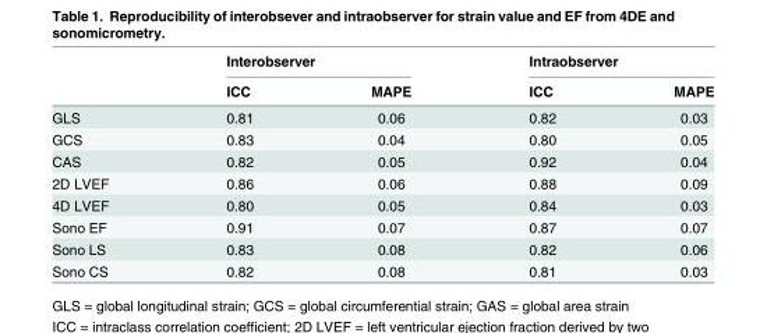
<table><thead><tr><td rowspan="2"></td><td colspan="2">Interobserver</td><td colspan="2">Intraobserver</td></tr><tr><td>ICC</td><td>MAPE</td><td>ICC</td><td>MAPE</td></tr></thead><tbody><tr><td>GLS</td><td>0.81</td><td>0.06</td><td>0.82</td><td>0.03</td></tr><tr><td>GCS</td><td>0.83</td><td>0.04</td><td>0.80</td><td>0.05</td></tr><tr><td>CAS</td><td>0.82</td><td>0.05</td><td>0.92</td><td>0.04</td></tr><tr><td>2D LVEF</td><td>0.86</td><td>0.06</td><td>0.88</td><td>0.09</td></tr><tr><td>4D LVEF</td><td>0.80</td><td>0.05</td><td>0.84</td><td>0.03</td></tr><tr><td>Sono EF</td><td>0.91</td><td>0.07</td><td>0.87</td><td>0.07</td></tr><tr><td>Sono LS</td><td>0.83</td><td>0.08</td><td>0.82</td><td>0.06</td></tr><tr><td>Sono CS</td><td>0.82</td><td>0.08</td><td>0.81</td><td>0.03</td></tr></tbody></table>